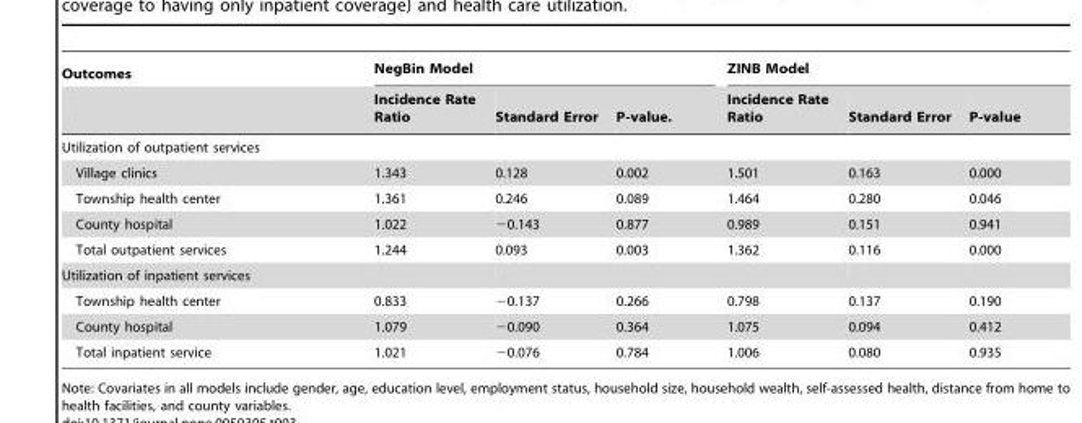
<table><thead><tr><td rowspan="2">Outcomes</td><td colspan="3">NegBin Model</td><td colspan="3">ZINB Model</td></tr><tr><td>Incidence Rate Ratio</td><td>Standard Error</td><td>P-value.</td><td>Incidence Rate Ratio</td><td>Standard Error</td><td>P-value</td></tr></thead><tbody><tr><td colspan="7">Utilization of outpatient services</td></tr><tr><td>Village clinics</td><td>1.343</td><td>0.128</td><td>0.002</td><td>1.501</td><td>0.163</td><td>0.000</td></tr><tr><td>Township health center</td><td>1.361</td><td>0.246</td><td>0.089</td><td>1.464</td><td>0.280</td><td>0.046</td></tr><tr><td>County hospital</td><td>1.022</td><td>−0.143</td><td>0.877</td><td>0.989</td><td>0.151</td><td>0.941</td></tr><tr><td>Total outpatient services</td><td>1.244</td><td>0.093</td><td>0.003</td><td>1.362</td><td>0.116</td><td>0.000</td></tr><tr><td colspan="7">Utilization of inpatient services</td></tr><tr><td>Township health center</td><td>0.833</td><td>−0.137</td><td>0.266</td><td>0.798</td><td>0.137</td><td>0.190</td></tr><tr><td>County hospital</td><td>1.079</td><td>−0.090</td><td>0.364</td><td>1.075</td><td>0.094</td><td>0.412</td></tr><tr><td>Total inpatient service</td><td>1.021</td><td>−0.076</td><td>0.784</td><td>1.006</td><td>0.080</td><td>0.935</td></tr></tbody></table>